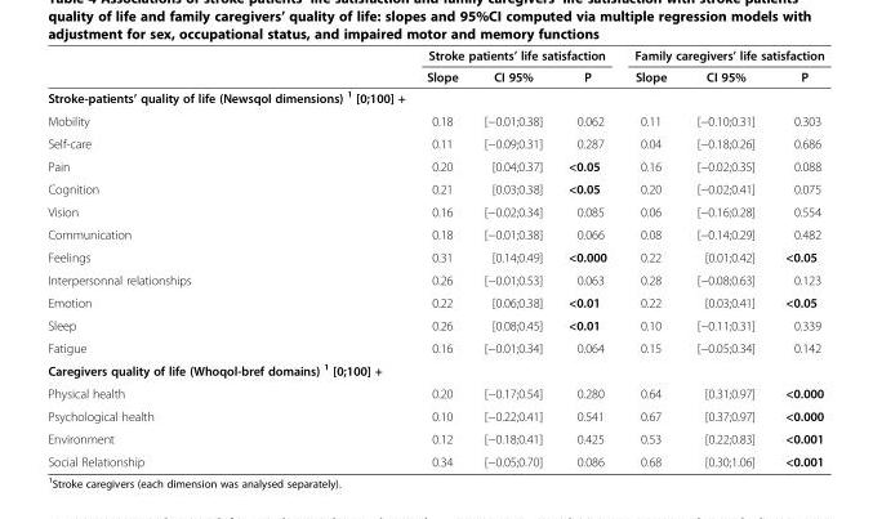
<table><thead><tr><td rowspan="2"></td><td colspan="3">Stroke patients’ life satisfaction</td><td colspan="3">Family caregivers’ life satisfaction</td></tr><tr><td>Slope</td><td>CI 95%</td><td>P</td><td>Slope</td><td>CI 95%</td><td>P</td></tr></thead><tbody><tr><td colspan="7">Stroke-patients’ quality of life (Newsqol dimensions) <sup>1</sup> [0;100] +</td></tr><tr><td>Mobility</td><td>0.18</td><td>[−0.01;0.38]</td><td>0.062</td><td>0.11</td><td>[−0.10;0.31]</td><td>0.303</td></tr><tr><td>Self-care</td><td>0.11</td><td>[−0.09;0.31]</td><td>0.287</td><td>0.04</td><td>[−0.18;0.26]</td><td>0.686</td></tr><tr><td>Pain</td><td>0.20</td><td>[0.04;0.37]</td><td>&lt;0.05</td><td>0.16</td><td>[−0.02;0.35]</td><td>0.088</td></tr><tr><td>Cognition</td><td>0.21</td><td>[0.03;0.38]</td><td>&lt;0.05</td><td>0.20</td><td>[−0.02;0.41]</td><td>0.075</td></tr><tr><td>Vision</td><td>0.16</td><td>[−0.02;0.34]</td><td>0.085</td><td>0.06</td><td>[−0.16;0.28]</td><td>0.554</td></tr><tr><td>Communication</td><td>0.18</td><td>[−0.01;0.38]</td><td>0.066</td><td>0.08</td><td>[−0.14;0.29]</td><td>0.482</td></tr><tr><td>Feelings</td><td>0.31</td><td>[0.14;0.49]</td><td>&lt;0.000</td><td>0.22</td><td>[0.01;0.42]</td><td>&lt;0.05</td></tr><tr><td>Interpersonnal relationships</td><td>0.26</td><td>[−0.01;0.53]</td><td>0.063</td><td>0.28</td><td>[−0.08;0.63]</td><td>0.123</td></tr><tr><td>Emotion</td><td>0.22</td><td>[0.06;0.38]</td><td>&lt;0.01</td><td>0.22</td><td>[0.03;0.41]</td><td>&lt;0.05</td></tr><tr><td>Sleep</td><td>0.26</td><td>[0.08;0.45]</td><td>&lt;0.01</td><td>0.10</td><td>[−0.11;0.31]</td><td>0.339</td></tr><tr><td>Fatigue</td><td>0.16</td><td>[−0.01;0.34]</td><td>0.064</td><td>0.15</td><td>[−0.05;0.34]</td><td>0.142</td></tr><tr><td colspan="7">Caregivers quality of life (Whoqol-bref domains) <sup>1</sup> [0;100] +</td></tr><tr><td>Physical health</td><td>0.20</td><td>[−0.17;0.54]</td><td>0.280</td><td>0.64</td><td>[0.31;0.97]</td><td>&lt;0.000</td></tr><tr><td>Psychological health</td><td>0.10</td><td>[−0.22;0.41]</td><td>0.541</td><td>0.67</td><td>[0.37;0.97]</td><td>&lt;0.000</td></tr><tr><td>Environment</td><td>0.12</td><td>[−0.18;0.41]</td><td>0.425</td><td>0.53</td><td>[0.22;0.83]</td><td>&lt;0.001</td></tr><tr><td>Social Relationship</td><td>0.34</td><td>[−0.05;0.70]</td><td>0.086</td><td>0.68</td><td>[0.30;1.06]</td><td>&lt;0.001</td></tr></tbody></table>